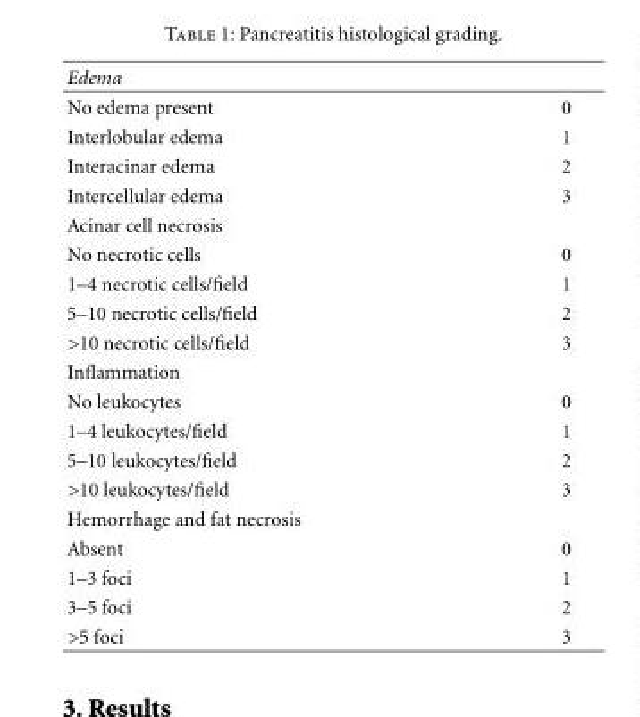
<table><thead><tr><td>Edema</td><td></td></tr></thead><tbody><tr><td>No edema present</td><td>0</td></tr><tr><td>Interlobular edema</td><td>1</td></tr><tr><td>Interacinar edema</td><td>2</td></tr><tr><td>Intercellular edema</td><td>3</td></tr><tr><td colspan="2">Acinar cell necrosis</td></tr><tr><td>No necrotic cells</td><td>0</td></tr><tr><td>1–4 necrotic cells/field</td><td>1</td></tr><tr><td>5–10 necrotic cells/field</td><td>2</td></tr><tr><td>&gt;10 necrotic cells/field</td><td>3</td></tr><tr><td colspan="2">Inflammation</td></tr><tr><td>No leukocytes</td><td>0</td></tr><tr><td>1–4 leukocytes/field</td><td>1</td></tr><tr><td>5–10 leukocytes/field</td><td>2</td></tr><tr><td>&gt;10 leukocytes/field</td><td>3</td></tr><tr><td colspan="2">Hemorrhage and fat necrosis</td></tr><tr><td>Absent</td><td>0</td></tr><tr><td>1–3 foci</td><td>1</td></tr><tr><td>3–5 foci</td><td>2</td></tr><tr><td>&gt;5 foci</td><td>3</td></tr></tbody></table>